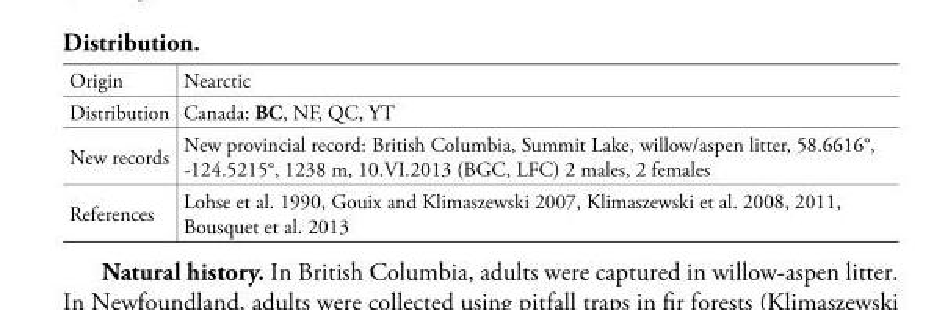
<table><tbody><tr><td>Origin</td><td>Nearctic</td></tr><tr><td>Distribution</td><td>Canada: BC, NF, QC, YT</td></tr><tr><td>New records</td><td>New provincial record: British Columbia, Summit Lake, willow/aspen litter, 58.6616°, -124.5215°, 1238 m, 10.VI.2013 (BGC, LFC) 2 males, 2 females</td></tr><tr><td>References</td><td>Lohse et al. 1990, Gouix and Klimaszewski 2007, Klimaszewski et al. 2008, 2011, Bousquet et al. 2013</td></tr></tbody></table>